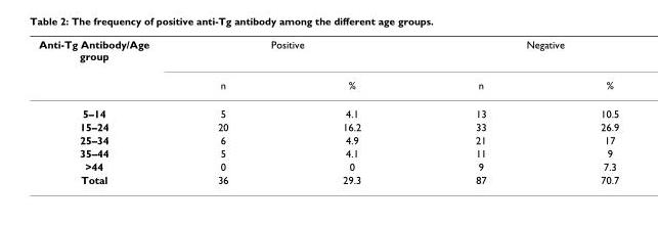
<table><thead><tr><td rowspan="2">Anti-Tg Antibody/Age group</td><td colspan="2">Positive</td><td colspan="2">Negative</td></tr><tr><td>n</td><td>%</td><td>n</td><td>%</td></tr></thead><tbody><tr><td>5–14</td><td>5</td><td>4.1</td><td>13</td><td>10.5</td></tr><tr><td>15–24</td><td>20</td><td>16.2</td><td>33</td><td>26.9</td></tr><tr><td>25–34</td><td>6</td><td>4.9</td><td>21</td><td>17</td></tr><tr><td>35–44</td><td>5</td><td>4.1</td><td>11</td><td>9</td></tr><tr><td>&gt;44</td><td>0</td><td>0</td><td>9</td><td>7.3</td></tr><tr><td>Total</td><td>36</td><td>29.3</td><td>87</td><td>70.7</td></tr></tbody></table>